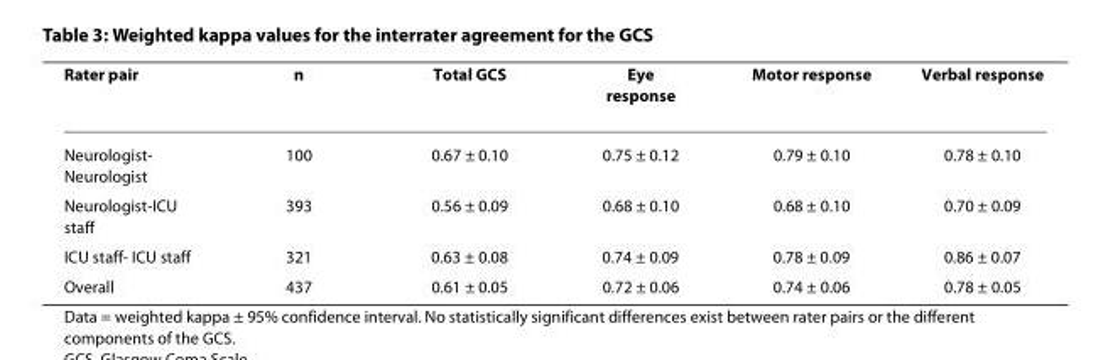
<table><thead><tr><td>Rater pair</td><td>n</td><td>Total GCS</td><td>Eye response</td><td>Motor response</td><td>Verbal response</td></tr></thead><tbody><tr><td>Neurologist- Neurologist</td><td>100</td><td>0.67 ± 0.10</td><td>0.75 ± 0.12</td><td>0.79 ± 0.10</td><td>0.78 ± 0.10</td></tr><tr><td>Neurologist-ICU staff</td><td>393</td><td>0.56 ± 0.09</td><td>0.68 ± 0.10</td><td>0.68 ± 0.10</td><td>0.70 ± 0.09</td></tr><tr><td>ICU staff- ICU staff</td><td>321</td><td>0.63 ± 0.08</td><td>0.74 ± 0.09</td><td>0.78 ± 0.09</td><td>0.86 ± 0.07</td></tr><tr><td>Overall</td><td>437</td><td>0.61 ± 0.05</td><td>0.72 ± 0.06</td><td>0.74 ± 0.06</td><td>0.78 ± 0.05</td></tr></tbody></table>